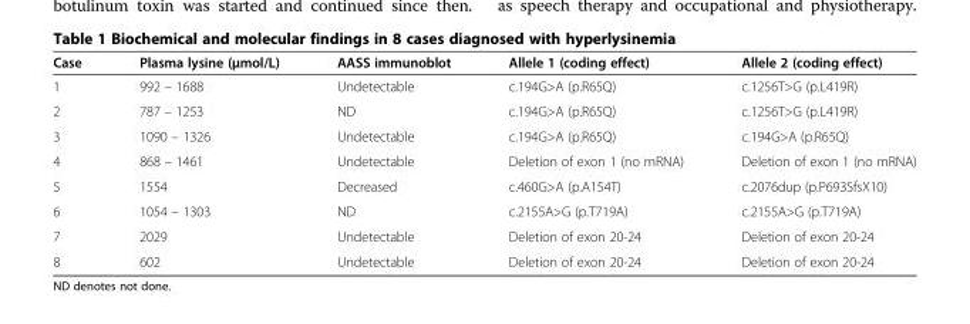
<table><thead><tr><td>Case</td><td>Plasma lysine (μmol/L)</td><td>AASS immunoblot</td><td>Allele 1 (coding effect)</td><td>Allele 2 (coding effect)</td></tr></thead><tbody><tr><td>1</td><td>992 – 1688</td><td>Undetectable</td><td>c.194G&gt;A (p.R65Q)</td><td>c.1256T&gt;G (p.L419R)</td></tr><tr><td>2</td><td>787 – 1253</td><td>ND</td><td>c.194G&gt;A (p.R65Q)</td><td>c.1256T&gt;G (p.L419R)</td></tr><tr><td>3</td><td>1090 – 1326</td><td>Undetectable</td><td>c.194G&gt;A (p.R65Q)</td><td>c.194G&gt;A (p.R65Q)</td></tr><tr><td>4</td><td>868 – 1461</td><td>Undetectable</td><td>Deletion of exon 1 (no mRNA)</td><td>Deletion of exon 1 (no mRNA)</td></tr><tr><td>5</td><td>1554</td><td>Decreased</td><td>c.460G&gt;A (p.A154T)</td><td>c.2076dup (p.P693SfsX10)</td></tr><tr><td>6</td><td>1054 – 1303</td><td>ND</td><td>c.2155A&gt;G (p.T719A)</td><td>c.2155A&gt;G (p.T719A)</td></tr><tr><td>7</td><td>2029</td><td>Undetectable</td><td>Deletion of exon 20-24</td><td>Deletion of exon 20-24</td></tr><tr><td>8</td><td>602</td><td>Undetectable</td><td>Deletion of exon 20-24</td><td>Deletion of exon 20-24</td></tr></tbody></table>